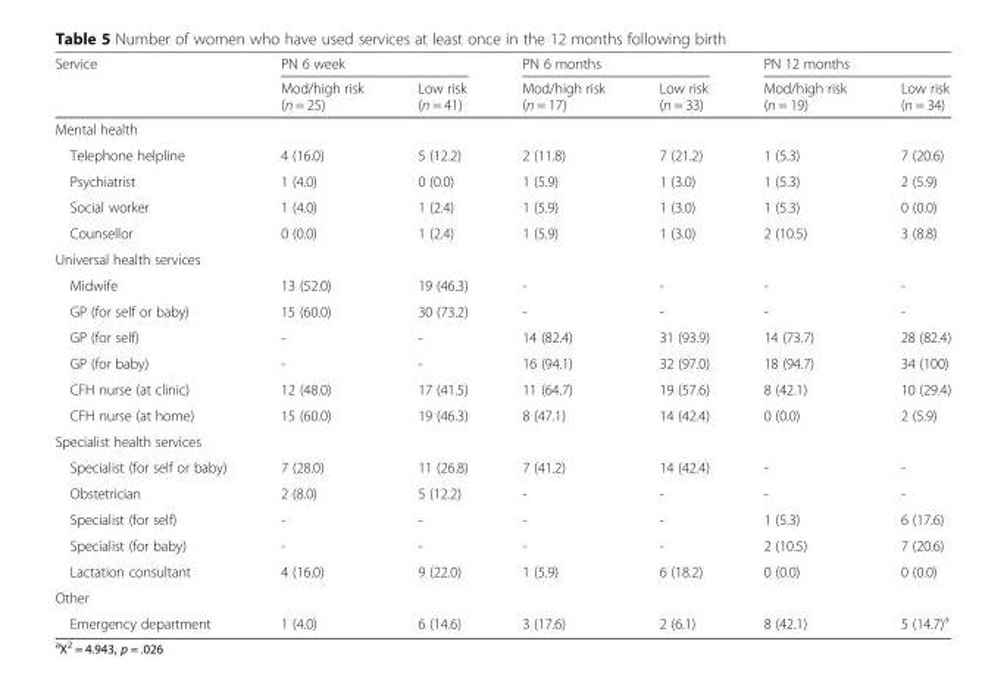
<table><thead><tr><td rowspan="2">Service</td><td colspan="2">PN 6 week</td><td colspan="2">PN 6 months</td><td colspan="2">PN 12 months</td></tr><tr><td>Mod/high risk (n = 25)</td><td>Low risk (n = 41)</td><td>Mod/high risk (n = 17)</td><td>Low risk (n = 33)</td><td>Mod/high risk (n = 19)</td><td>Low risk (n = 34)</td></tr></thead><tbody><tr><td colspan="7">Mental health</td></tr><tr><td>Telephone helpline</td><td>4 (16.0)</td><td>5 (12.2)</td><td>2 (11.8)</td><td>7 (21.2)</td><td>1 (5.3)</td><td>7 (20.6)</td></tr><tr><td>Psychiatrist</td><td>1 (4.0)</td><td>0 (0.0)</td><td>1 (5.9)</td><td>1 (3.0)</td><td>1 (5.3)</td><td>2 (5.9)</td></tr><tr><td>Social worker</td><td>1 (4.0)</td><td>1 (2.4)</td><td>1 (5.9)</td><td>1 (3.0)</td><td>1 (5.3)</td><td>0 (0.0)</td></tr><tr><td>Counsellor</td><td>0 (0.0)</td><td>1 (2.4)</td><td>1 (5.9)</td><td>1 (3.0)</td><td>2 (10.5)</td><td>3 (8.8)</td></tr><tr><td colspan="7">Universal health services</td></tr><tr><td>Midwife</td><td>13 (52.0)</td><td>19 (46.3)</td><td>-</td><td>-</td><td>-</td><td>-</td></tr><tr><td>GP (for self or baby)</td><td>15 (60.0)</td><td>30 (73.2)</td><td>-</td><td>-</td><td>-</td><td>-</td></tr><tr><td>GP (for self)</td><td>-</td><td>-</td><td>14 (82.4)</td><td>31 (93.9)</td><td>14 (73.7)</td><td>28 (82.4)</td></tr><tr><td>GP (for baby)</td><td>-</td><td>-</td><td>16 (94.1)</td><td>32 (97.0)</td><td>18 (94.7)</td><td>34 (100)</td></tr><tr><td>CFH nurse (at clinic)</td><td>12 (48.0)</td><td>17 (41.5)</td><td>11 (64.7)</td><td>19 (57.6)</td><td>8 (42.1)</td><td>10 (29.4)</td></tr><tr><td>CFH nurse (at home)</td><td>15 (60.0)</td><td>19 (46.3)</td><td>8 (47.1)</td><td>14 (42.4)</td><td>0 (0.0)</td><td>2 (5.9)</td></tr><tr><td colspan="7">Specialist health services</td></tr><tr><td>Specialist (for self or baby)</td><td>7 (28.0)</td><td>11 (26.8)</td><td>7 (41.2)</td><td>14 (42.4)</td><td>-</td><td>-</td></tr><tr><td>Obstetrician</td><td>2 (8.0)</td><td>5 (12.2)</td><td>-</td><td>-</td><td>-</td><td>-</td></tr><tr><td>Specialist (for self)</td><td>-</td><td>-</td><td>-</td><td>-</td><td>1 (5.3)</td><td>6 (17.6)</td></tr><tr><td>Specialist (for baby)</td><td>-</td><td>-</td><td>-</td><td>-</td><td>2 (10.5)</td><td>7 (20.6)</td></tr><tr><td>Lactation consultant</td><td>4 (16.0)</td><td>9 (22.0)</td><td>1 (5.9)</td><td>6 (18.2)</td><td>0 (0.0)</td><td>0 (0.0)</td></tr><tr><td colspan="7">Other</td></tr><tr><td>Emergency department</td><td>1 (4.0)</td><td>6 (14.6)</td><td>3 (17.6)</td><td>2 (6.1)</td><td>8 (42.1)</td><td>5 (14.7)<sup>a</sup></td></tr></tbody></table>